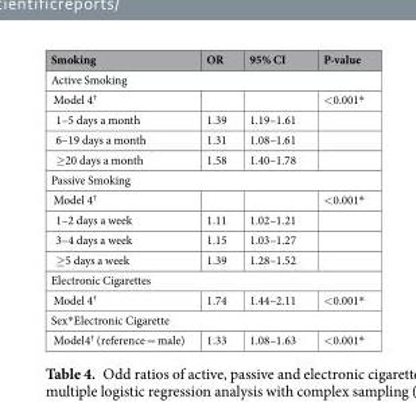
<table><thead><tr><td>Smoking</td><td>OR</td><td>95% CI</td><td>P-value</td></tr></thead><tbody><tr><td colspan="4">Active Smoking</td></tr><tr><td>Model 4<sup>†</sup></td><td></td><td></td><td>&lt;0.001*</td></tr><tr><td>1–5 days a month</td><td>1.39</td><td>1.19–1.61</td><td></td></tr><tr><td>6–19 days a month</td><td>1.31</td><td>1.08–1.61</td><td></td></tr><tr><td>≥20 days a month</td><td>1.58</td><td>1.40–1.78</td><td></td></tr><tr><td colspan="4">Passive Smoking</td></tr><tr><td>Model 4<sup>†</sup></td><td></td><td></td><td>&lt;0.001*</td></tr><tr><td>1–2 days a week</td><td>1.11</td><td>1.02–1.21</td><td></td></tr><tr><td>3–4 days a week</td><td>1.15</td><td>1.03–1.27</td><td></td></tr><tr><td>≥5 days a week</td><td>1.39</td><td>1.28–1.52</td><td></td></tr><tr><td colspan="4">Electronic Cigarettes</td></tr><tr><td>Model 4<sup>†</sup></td><td>1.74</td><td>1.44–2.11</td><td>&lt;0.001*</td></tr><tr><td colspan="4">Sex*Electronic Cigarette</td></tr><tr><td>Model4<sup>†</sup> (reference = male)</td><td>1.33</td><td>1.08–1.63</td><td>&lt;0.001*</td></tr></tbody></table>